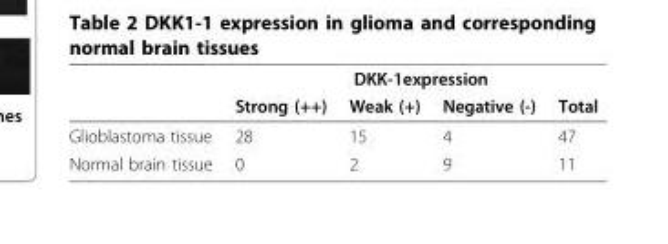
<table><thead><tr><td rowspan="2"></td><td colspan="4">DKK-1expression</td></tr><tr><td>Strong (++)</td><td>Weak (+)</td><td>Negative (-)</td><td>Total</td></tr></thead><tbody><tr><td>Glioblastoma tissue</td><td>28</td><td>15</td><td>4</td><td>47</td></tr><tr><td>Normal brain tissue</td><td>0</td><td>2</td><td>9</td><td>11</td></tr></tbody></table>